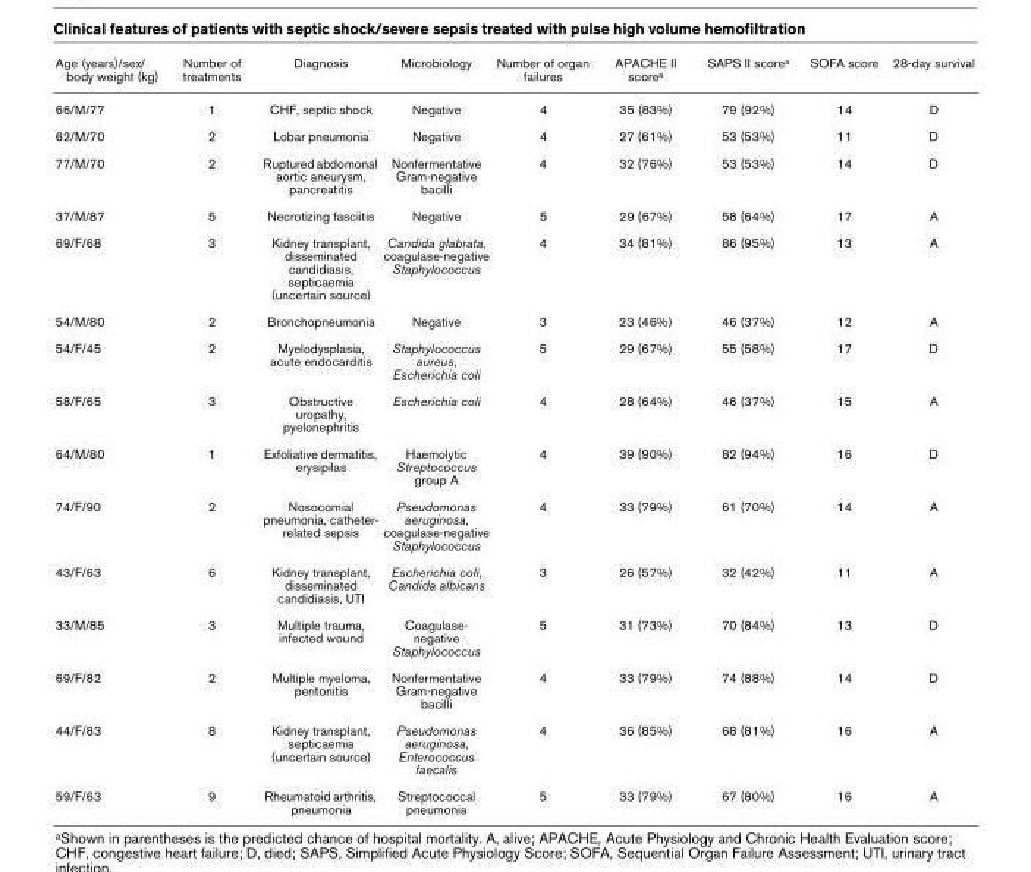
<table><thead><tr><td>Age (years)/sex/ body weight (kg)</td><td>Number of treatments</td><td>Diagnosis</td><td>Microbiology</td><td>Number of organ failures</td><td>APACHE II scorea</td><td>SAPS II scorea</td><td>SOFA score</td><td>28-day survival</td></tr></thead><tbody><tr><td>66/M/77</td><td>1</td><td>CHF, septic shock</td><td>Negative</td><td>4</td><td>35 (83%)</td><td>79 (92%)</td><td>14</td><td>D</td></tr><tr><td>62/M/70</td><td>2</td><td>Lobar pneumonia</td><td>Negative</td><td>4</td><td>27 (61%)</td><td>53 (53%)</td><td>11</td><td>D</td></tr><tr><td>77/M/70</td><td>2</td><td>Ruptured abdomonal aortic aneurysm, pancreatitis</td><td>Nonfermentative Gram-negative bacilli</td><td>4</td><td>32 (76%)</td><td>53 (53%)</td><td>14</td><td>D</td></tr><tr><td>37/M/87</td><td>5</td><td>Necrotizing fasciitis</td><td>Negative</td><td>5</td><td>29 (67%)</td><td>58 (64%)</td><td>17</td><td>A</td></tr><tr><td>69/F/68</td><td>3</td><td>Kidney transplant, disseminated candidiasis, septicaemia (uncertain source)</td><td>Candida glabrata, coagulase-negative Staphylococcus</td><td>4</td><td>34 (81%)</td><td>86 (95%)</td><td>13</td><td>A</td></tr><tr><td>54/M/80</td><td>2</td><td>Bronchopneumonia</td><td>Negative</td><td>3</td><td>23 (46%)</td><td>46 (37%)</td><td>12</td><td>A</td></tr><tr><td>54/F/45</td><td>2</td><td>Myelodysplasia, acute endocarditis</td><td>Staphylococcus aureus, Escherichia coli</td><td>5</td><td>29 (67%)</td><td>55 (58%)</td><td>17</td><td>D</td></tr><tr><td>58/F/65</td><td>3</td><td>Obstructive uropathy, pyelonephritis</td><td>Escherichia coli</td><td>4</td><td>28 (64%)</td><td>46 (37%)</td><td>15</td><td>A</td></tr><tr><td>64/M/80</td><td>1</td><td>Exfoliative dermatitis, erysipilas</td><td>Haemolytic Streptococcus group A</td><td>4</td><td>39 (90%)</td><td>82 (94%)</td><td>16</td><td>D</td></tr><tr><td>74/F/90</td><td>2</td><td>Nosocomial pneumonia, catheter- related sepsis</td><td>Pseudomonas aeruginosa, coagulase-negative Staphylococcus</td><td>4</td><td>33 (79%)</td><td>61 (70%)</td><td>14</td><td>A</td></tr><tr><td>43/F/63</td><td>6</td><td>Kidney transplant, disseminated candidiasis, UTI</td><td>Escherichia coli, Candida albicans</td><td>3</td><td>26 (57%)</td><td>32 (42%)</td><td>11</td><td>A</td></tr><tr><td>33/M/85</td><td>3</td><td>Multiple trauma, infected wound</td><td>Coagulase- negative Staphylococcus</td><td>5</td><td>31 (73%)</td><td>70 (84%)</td><td>13</td><td>D</td></tr><tr><td>69/F/82</td><td>2</td><td>Multiple myeloma, peritonitis</td><td>Nonfermentative Gram-negative bacilli</td><td>4</td><td>33 (79%)</td><td>74 (88%)</td><td>14</td><td>D</td></tr><tr><td>44/F/83</td><td>8</td><td>Kidney transplant, septicaemia (uncertain source)</td><td>Pseudomonas aeruginosa, Enterococcus faecalis</td><td>4</td><td>36 (85%)</td><td>68 (81%)</td><td>16</td><td>A</td></tr><tr><td>59/F/63</td><td>9</td><td>Rheumatoid arthritis, pneumonia</td><td>Streptococcal pneumonia</td><td>5</td><td>33 (79%)</td><td>67 (80%)</td><td>16</td><td>A</td></tr></tbody></table>